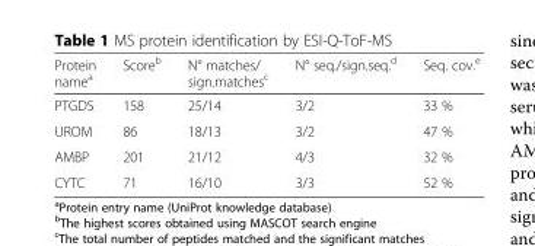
<table><thead><tr><td>Protein name<sup>a</sup></td><td>Score<sup>b</sup></td><td>N° matches/ sign.matches<sup>c</sup></td><td>N° seq./sign.seq.<sup>d</sup></td><td>Seq. cov.<sup>e</sup></td></tr></thead><tbody><tr><td>PTGDS</td><td>158</td><td>25/14</td><td>3/2</td><td>33 %</td></tr><tr><td>UROM</td><td>86</td><td>18/13</td><td>3/2</td><td>47 %</td></tr><tr><td>AMBP</td><td>201</td><td>21/12</td><td>4/3</td><td>32 %</td></tr><tr><td>CYTC</td><td>71</td><td>16/10</td><td>3/3</td><td>52 %</td></tr></tbody></table>